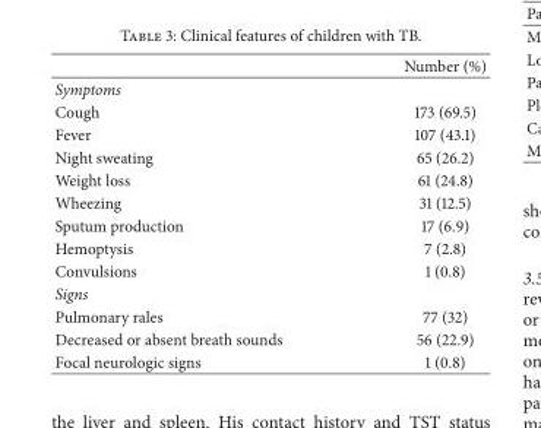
<table><thead><tr><td></td><td>Number (%)</td></tr></thead><tbody><tr><td colspan="2">Symptoms</td></tr><tr><td>Cough</td><td>173 (69.5)</td></tr><tr><td>Fever</td><td>107 (43.1)</td></tr><tr><td>Night sweating</td><td>65 (26.2)</td></tr><tr><td>Weight loss</td><td>61 (24.8)</td></tr><tr><td>Wheezing</td><td>31 (12.5)</td></tr><tr><td>Sputum production</td><td>17 (6.9)</td></tr><tr><td>Hemoptysis</td><td>7 (2.8)</td></tr><tr><td>Convulsions</td><td>1 (0.8)</td></tr><tr><td colspan="2">Signs</td></tr><tr><td>Pulmonary rales</td><td>77 (32)</td></tr><tr><td>Decreased or absent breath sounds</td><td>56 (22.9)</td></tr><tr><td>Focal neurologic signs</td><td>1 (0.8)</td></tr></tbody></table>